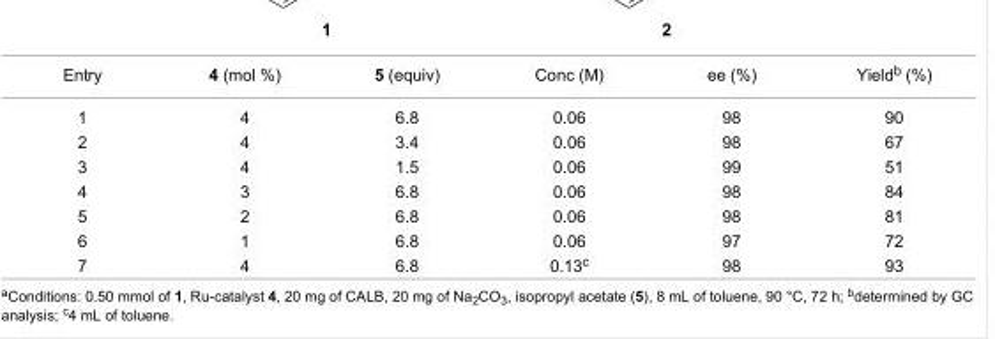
<table><tbody><tr><td>Entry</td><td>4 (mol %)</td><td>5 (equiv)</td><td>Conc (M)</td><td>ee (%)</td><td>Yield<sup>b</sup> (%)</td></tr><tr><td>1</td><td>4</td><td>6.8</td><td>0.06</td><td>98</td><td>90</td></tr><tr><td>2</td><td>4</td><td>3.4</td><td>0.06</td><td>98</td><td>67</td></tr><tr><td>3</td><td>4</td><td>1.5</td><td>0.06</td><td>99</td><td>51</td></tr><tr><td>4</td><td>3</td><td>6.8</td><td>0.06</td><td>98</td><td>84</td></tr><tr><td>5</td><td>2</td><td>6.8</td><td>0.06</td><td>98</td><td>81</td></tr><tr><td>6</td><td>1</td><td>6.8</td><td>0.06</td><td>97</td><td>72</td></tr><tr><td>7</td><td>4</td><td>6.8</td><td>0.13<sup>c</sup></td><td>98</td><td>93</td></tr></tbody></table>